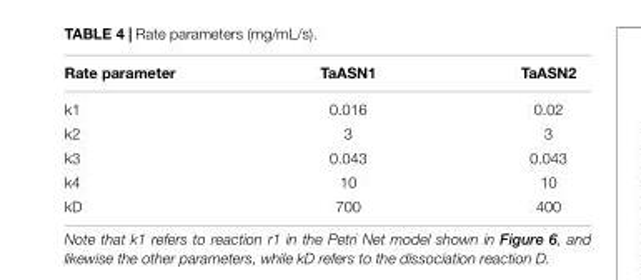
<table><thead><tr><td>Rate parameter</td><td>TaASN1</td><td>TaASN2</td></tr></thead><tbody><tr><td>k1</td><td>0.016</td><td>0.02</td></tr><tr><td>k2</td><td>3</td><td>3</td></tr><tr><td>k3</td><td>0.043</td><td>0.043</td></tr><tr><td>k4</td><td>10</td><td>10</td></tr><tr><td>kD</td><td>700</td><td>400</td></tr></tbody></table>